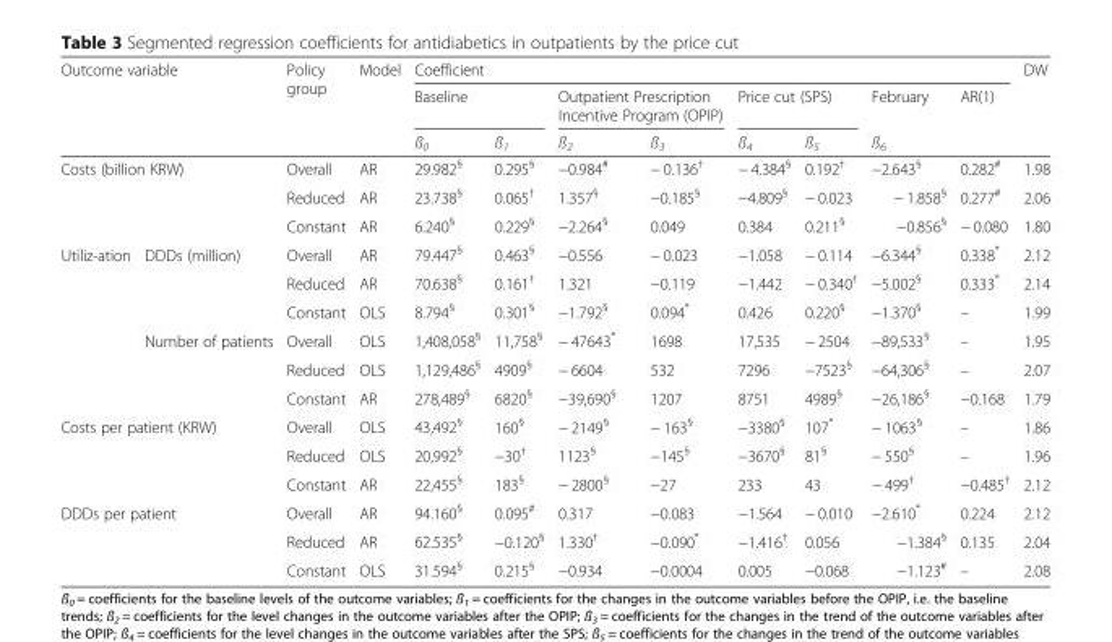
<table><thead><tr><td rowspan="3" colspan="2">Outcome variable</td><td rowspan="3">Policy group</td><td rowspan="3">Model</td><td colspan="8">Coefficient</td><td rowspan="3">DW</td></tr><tr><td colspan="2">Baseline</td><td colspan="2">Outpatient Prescription Incentive Program (OPIP)</td><td colspan="2">Price cut (SPS)</td><td rowspan="2">February ß<sub>6</sub></td><td rowspan="2">AR(1)</td></tr><tr><td>ß<sub>0</sub></td><td>ß<sub>1</sub></td><td>ß<sub>2</sub></td><td>ß<sub>3</sub></td><td>ß<sub>4</sub></td><td>ß<sub>5</sub></td></tr></thead><tbody><tr><td rowspan="3" colspan="2">Costs (billion KRW)</td><td>Overall</td><td>AR</td><td>29.982<sup>§</sup></td><td>0.295<sup>§</sup></td><td>−0.984<sup>#</sup></td><td>− 0.136<sup>†</sup></td><td>− 4.384<sup>§</sup></td><td>0.192<sup>†</sup></td><td>−2.643<sup>§</sup></td><td>0.282<sup>#</sup></td><td>1.98</td></tr><tr><td>Reduced</td><td>AR</td><td>23.738<sup>§</sup></td><td>0.065<sup>†</sup></td><td>1.357<sup>§</sup></td><td>−0.185<sup>§</sup></td><td>−4.809<sup>§</sup></td><td>− 0.023</td><td>− 1.858<sup>§</sup></td><td>0.277<sup>#</sup></td><td>2.06</td></tr><tr><td>Constant</td><td>AR</td><td>6.240<sup>§</sup></td><td>0.229<sup>§</sup></td><td>−2.264<sup>§</sup></td><td>0.049</td><td>0.384</td><td>0.211<sup>§</sup></td><td>−0.856<sup>§</sup></td><td>− 0.080</td><td>1.80</td></tr><tr><td rowspan="6">Utiliz-ation</td><td rowspan="3">DDDs (million)</td><td>Overall</td><td>AR</td><td>79.447<sup>§</sup></td><td>0.463<sup>§</sup></td><td>−0.556</td><td>− 0.023</td><td>−1.058</td><td>− 0.114</td><td>−6.344<sup>§</sup></td><td>0.338*</td><td>2.12</td></tr><tr><td>Reduced</td><td>AR</td><td>70.638<sup>§</sup></td><td>0.161<sup>†</sup></td><td>1.321</td><td>−0.119</td><td>−1.442</td><td>− 0.340<sup>†</sup></td><td>−5.002<sup>§</sup></td><td>0.333*</td><td>2.14</td></tr><tr><td>Constant</td><td>OLS</td><td>8.794<sup>§</sup></td><td>0.301<sup>§</sup></td><td>−1.792<sup>§</sup></td><td>0.094*</td><td>0.426</td><td>0.220<sup>§</sup></td><td>−1.370<sup>§</sup></td><td>–</td><td>1.99</td></tr><tr><td rowspan="3">Number of patients</td><td>Overall</td><td>OLS</td><td>1,408,058<sup>§</sup></td><td>11,758<sup>§</sup></td><td>− 47643*</td><td>1698</td><td>17,535</td><td>− 2504</td><td>−89,533<sup>§</sup></td><td>–</td><td>1.95</td></tr><tr><td>Reduced</td><td>OLS</td><td>1,129,486<sup>§</sup></td><td>4909<sup>§</sup></td><td>− 6604</td><td>532</td><td>7296</td><td>−7523<sup>§</sup></td><td>−64,306<sup>§</sup></td><td>–</td><td>2.07</td></tr><tr><td>Constant</td><td>AR</td><td>278,489<sup>§</sup></td><td>6820<sup>§</sup></td><td>−39,690<sup>§</sup></td><td>1207</td><td>8751</td><td>4989<sup>§</sup></td><td>−26,186<sup>§</sup></td><td>−0.168</td><td>1.79</td></tr><tr><td rowspan="3" colspan="2">Costs per patient (KRW)</td><td>Overall</td><td>OLS</td><td>43,492<sup>§</sup></td><td>160<sup>§</sup></td><td>− 2149<sup>§</sup></td><td>− 163<sup>§</sup></td><td>−3380<sup>§</sup></td><td>107*</td><td>− 1063<sup>§</sup></td><td>–</td><td>1.86</td></tr><tr><td>Reduced</td><td>OLS</td><td>20,992<sup>§</sup></td><td>−30<sup>†</sup></td><td>1123<sup>§</sup></td><td>−145<sup>§</sup></td><td>−3670<sup>§</sup></td><td>81<sup>§</sup></td><td>− 550<sup>§</sup></td><td>–</td><td>1.96</td></tr><tr><td>Constant</td><td>AR</td><td>22,455<sup>§</sup></td><td>183<sup>§</sup></td><td>− 2800<sup>§</sup></td><td>−27</td><td>233</td><td>43</td><td>− 499<sup>†</sup></td><td>−0.485<sup>†</sup></td><td>2.12</td></tr><tr><td rowspan="3" colspan="2">DDDs per patient</td><td>Overall</td><td>AR</td><td>94.160<sup>§</sup></td><td>0.095<sup>#</sup></td><td>0.317</td><td>−0.083</td><td>−1.564</td><td>− 0.010</td><td>−2.610*</td><td>0.224</td><td>2.12</td></tr><tr><td>Reduced</td><td>AR</td><td>62.535<sup>§</sup></td><td>−0.120<sup>§</sup></td><td>1.330<sup>†</sup></td><td>−0.090*</td><td>−1.416<sup>†</sup></td><td>0.056</td><td>−1.384<sup>§</sup></td><td>0.135</td><td>2.04</td></tr><tr><td>Constant</td><td>OLS</td><td>31.594<sup>§</sup></td><td>0.215<sup>§</sup></td><td>−0.934</td><td>−0.0004</td><td>0.005</td><td>−0.068</td><td>−1.123<sup>#</sup></td><td>–</td><td>2.08</td></tr></tbody></table>